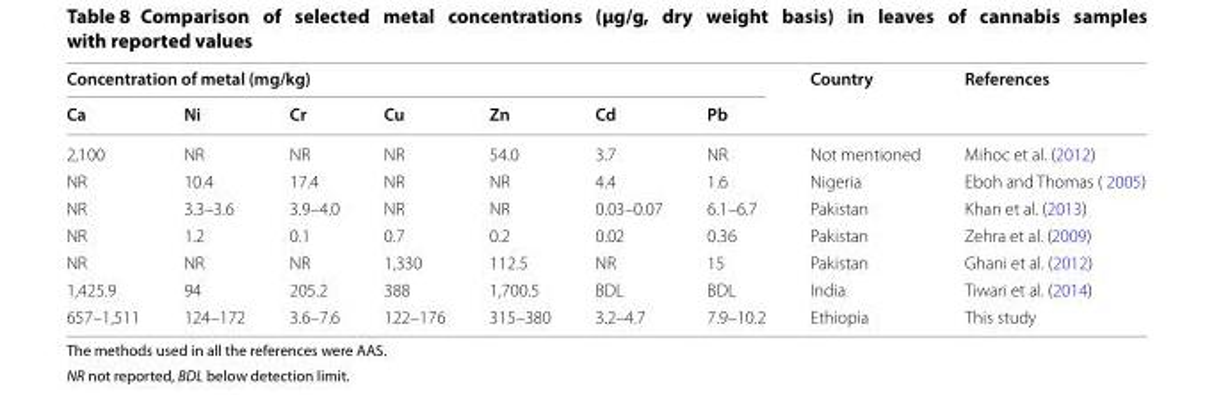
<table><thead><tr><td colspan="7">Concentration of metal (mg/kg)</td><td rowspan="2">Country</td><td rowspan="2">References</td></tr><tr><td>Ca</td><td>Ni</td><td>Cr</td><td>Cu</td><td>Zn</td><td>Cd</td><td>Pb</td></tr></thead><tbody><tr><td>2,100</td><td>NR</td><td>NR</td><td>NR</td><td>54.0</td><td>3.7</td><td>NR</td><td>Not mentioned</td><td>Mihoc et al. (2012)</td></tr><tr><td>NR</td><td>10.4</td><td>17.4</td><td>NR</td><td>NR</td><td>4.4</td><td>1.6</td><td>Nigeria</td><td>Eboh and Thomas ( 2005)</td></tr><tr><td>NR</td><td>3.3–3.6</td><td>3.9–4.0</td><td>NR</td><td>NR</td><td>0.03–0.07</td><td>6.1–6.7</td><td>Pakistan</td><td>Khan et al. (2013)</td></tr><tr><td>NR</td><td>1.2</td><td>0.1</td><td>0.7</td><td>0.2</td><td>0.02</td><td>0.36</td><td>Pakistan</td><td>Zehra et al. (2009)</td></tr><tr><td>NR</td><td>NR</td><td>NR</td><td>1,330</td><td>112.5</td><td>NR</td><td>15</td><td>Pakistan</td><td>Ghani et al. (2012)</td></tr><tr><td>1,425.9</td><td>94</td><td>205.2</td><td>388</td><td>1,700.5</td><td>BDL</td><td>BDL</td><td>India</td><td>Tiwari et al. (2014)</td></tr><tr><td>657–1,511</td><td>124–172</td><td>3.6–7.6</td><td>122–176</td><td>315–380</td><td>3.2–4.7</td><td>7.9–10.2</td><td>Ethiopia</td><td>This study</td></tr></tbody></table>